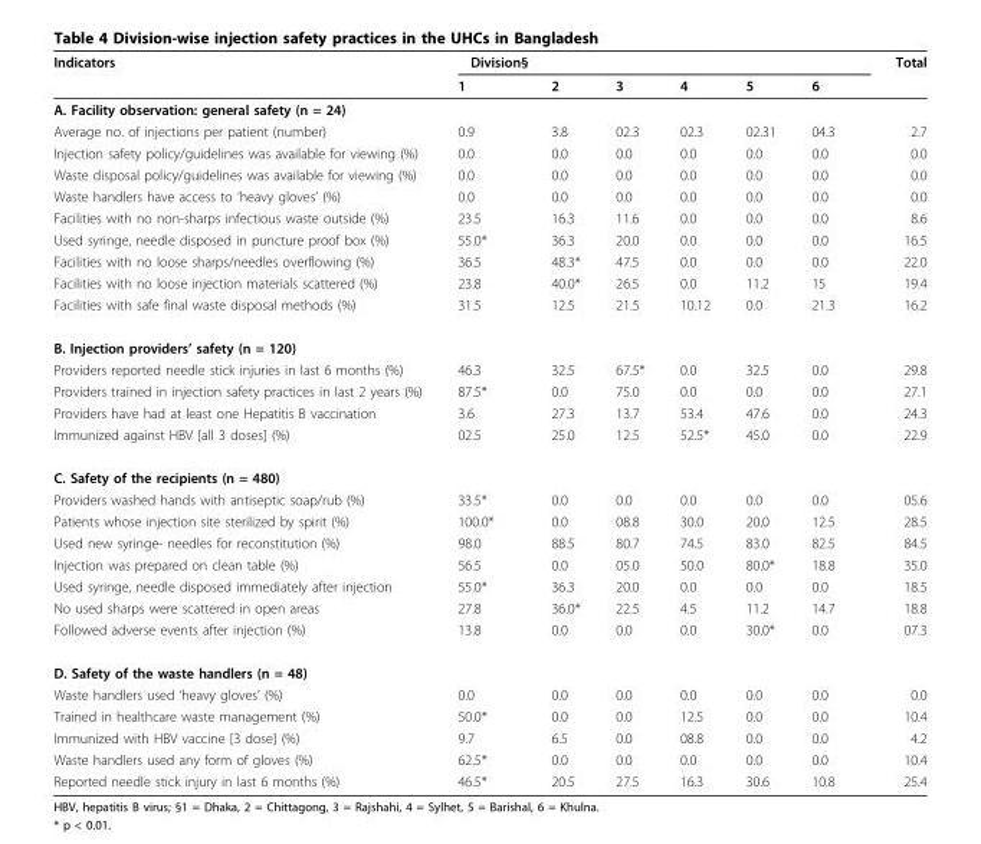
<table><thead><tr><td rowspan="2">Indicators</td><td rowspan="2">Division§ 1</td><td rowspan="2">2</td><td rowspan="2">3</td><td rowspan="2">4</td><td rowspan="2">5</td><td rowspan="2">6</td><td rowspan="2">Total</td></tr><tr></tr></thead><tbody><tr><td colspan="8">A. Facility observation: general safety (n = 24)</td></tr><tr><td>Average no. of injections per patient (number)</td><td>0.9</td><td>3.8</td><td>02.3</td><td>02.3</td><td>02.31</td><td>04.3</td><td>2.7</td></tr><tr><td>Injection safety policy/guidelines was available for viewing (%)</td><td>0.0</td><td>0.0</td><td>0.0</td><td>0.0</td><td>0.0</td><td>0.0</td><td>0.0</td></tr><tr><td>Waste disposal policy/guidelines was available for viewing (%)</td><td>0.0</td><td>0.0</td><td>0.0</td><td>0.0</td><td>0.0</td><td>0.0</td><td>0.0</td></tr><tr><td>Waste handlers have access to ‘heavy gloves’ (%)</td><td>0.0</td><td>0.0</td><td>0.0</td><td>0.0</td><td>0.0</td><td>0.0</td><td>0.0</td></tr><tr><td>Facilities with no non-sharps infectious waste outside (%)</td><td>23.5</td><td>16.3</td><td>11.6</td><td>0.0</td><td>0.0</td><td>0.0</td><td>8.6</td></tr><tr><td>Used syringe, needle disposed in puncture proof box (%)</td><td>55.0*</td><td>36.3</td><td>20.0</td><td>0.0</td><td>0.0</td><td>0.0</td><td>16.5</td></tr><tr><td>Facilities with no loose sharps/needles overflowing (%)</td><td>36.5</td><td>48.3*</td><td>47.5</td><td>0.0</td><td>0.0</td><td>0.0</td><td>22.0</td></tr><tr><td>Facilities with no loose injection materials scattered (%)</td><td>23.8</td><td>40.0*</td><td>26.5</td><td>0.0</td><td>11.2</td><td>15</td><td>19.4</td></tr><tr><td>Facilities with safe final waste disposal methods (%)</td><td>31.5</td><td>12.5</td><td>21.5</td><td>10.12</td><td>0.0</td><td>21.3</td><td>16.2</td></tr><tr><td colspan="8">B. Injection providers’ safety (n = 120)</td></tr><tr><td>Providers reported needle stick injuries in last 6 months (%)</td><td>46.3</td><td>32.5</td><td>67.5*</td><td>0.0</td><td>32.5</td><td>0.0</td><td>29.8</td></tr><tr><td>Providers trained in injection safety practices in last 2 years (%)</td><td>87.5*</td><td>0.0</td><td>75.0</td><td>0.0</td><td>0.0</td><td>0.0</td><td>27.1</td></tr><tr><td>Providers have had at least one Hepatitis B vaccination</td><td>3.6</td><td>27.3</td><td>13.7</td><td>53.4</td><td>47.6</td><td>0.0</td><td>24.3</td></tr><tr><td>Immunized against HBV [all 3 doses] (%)</td><td>02.5</td><td>25.0</td><td>12.5</td><td>52.5*</td><td>45.0</td><td>0.0</td><td>22.9</td></tr><tr><td colspan="8">C. Safety of the recipients (n = 480)</td></tr><tr><td>Providers washed hands with antiseptic soap/rub (%)</td><td>33.5*</td><td>0.0</td><td>0.0</td><td>0.0</td><td>0.0</td><td>0.0</td><td>05.6</td></tr><tr><td>Patients whose injection site sterilized by spirit (%)</td><td>100.0*</td><td>0.0</td><td>08.8</td><td>30.0</td><td>20.0</td><td>12.5</td><td>28.5</td></tr><tr><td>Used new syringe- needles for reconstitution (%)</td><td>98.0</td><td>88.5</td><td>80.7</td><td>74.5</td><td>83.0</td><td>82.5</td><td>84.5</td></tr><tr><td>Injection was prepared on clean table (%)</td><td>56.5</td><td>0.0</td><td>05.0</td><td>50.0</td><td>80.0*</td><td>18.8</td><td>35.0</td></tr><tr><td>Used syringe, needle disposed immediately after injection</td><td>55.0*</td><td>36.3</td><td>20.0</td><td>0.0</td><td>0.0</td><td>0.0</td><td>18.5</td></tr><tr><td>No used sharps were scattered in open areas</td><td>27.8</td><td>36.0*</td><td>22.5</td><td>4.5</td><td>11.2</td><td>14.7</td><td>18.8</td></tr><tr><td>Followed adverse events after injection (%)</td><td>13.8</td><td>0.0</td><td>0.0</td><td>0.0</td><td>30.0*</td><td>0.0</td><td>07.3</td></tr><tr><td colspan="8">D. Safety of the waste handlers (n = 48)</td></tr><tr><td>Waste handlers used ‘heavy gloves’ (%)</td><td>0.0</td><td>0.0</td><td>0.0</td><td>0.0</td><td>0.0</td><td>0.0</td><td>0.0</td></tr><tr><td>Trained in healthcare waste management (%)</td><td>50.0*</td><td>0.0</td><td>0.0</td><td>12.5</td><td>0.0</td><td>0.0</td><td>10.4</td></tr><tr><td>Immunized with HBV vaccine [3 dose] (%)</td><td>9.7</td><td>6.5</td><td>0.0</td><td>08.8</td><td>0.0</td><td>0.0</td><td>4.2</td></tr><tr><td>Waste handlers used any form of gloves (%)</td><td>62.5*</td><td>0.0</td><td>0.0</td><td>0.0</td><td>0.0</td><td>0.0</td><td>10.4</td></tr><tr><td>Reported needle stick injury in last 6 months (%)</td><td>46.5*</td><td>20.5</td><td>27.5</td><td>16.3</td><td>30.6</td><td>10.8</td><td>25.4</td></tr></tbody></table>